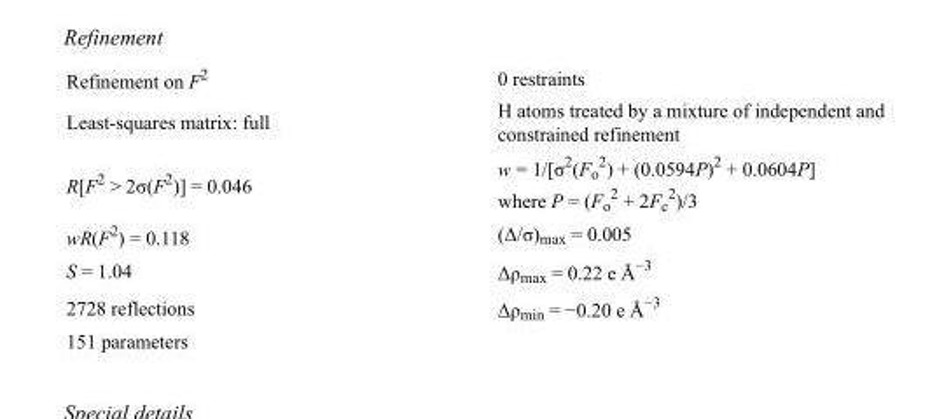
<table><tbody><tr><td>Refinement on F<sup>2</sup></td><td>0 restraints</td></tr><tr><td>Least-squares matrix: full</td><td>H atoms treated by a mixture of independent and constrained refinement</td></tr><tr><td>R[F<sup>2</sup> &gt; 2σ(F<sup>2</sup>)] = 0.046</td><td>w = 1/[σ<sup>2</sup>(F<sub>o</sub> <sup>2</sup>) + (0.0594P)<sup>2</sup> + 0.0604P] where P = (F<sub>o</sub> <sup>2</sup> + 2F<sub>c</sub> <sup>2</sup>)/3</td></tr><tr><td>wR(F<sup>2</sup>) = 0.118</td><td>(Δ/σ)<sub>max</sub> = 0.005</td></tr><tr><td>S = 1.04</td><td>Δρ<sub>max</sub> = 0.22 e Å<sup>−3</sup></td></tr><tr><td>2728 reflections</td><td>Δρ<sub>min</sub> = −0.20 e Å<sup>−3</sup></td></tr><tr><td>151 parameters</td><td></td></tr></tbody></table>